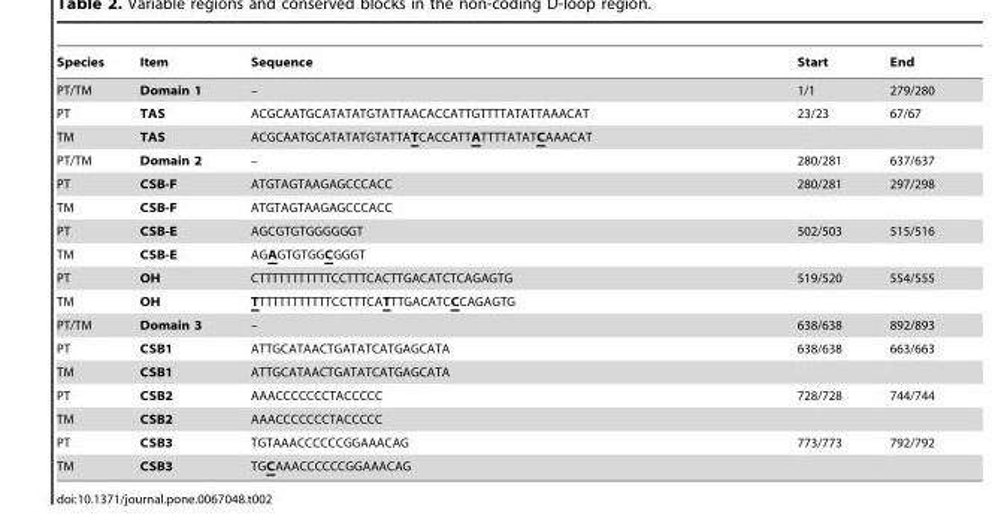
<table><thead><tr><td>Species</td><td>Item</td><td>Sequence</td><td>Start</td><td>End</td></tr></thead><tbody><tr><td>PT/TM</td><td>Domain 1</td><td>–</td><td>1/1</td><td>279/280</td></tr><tr><td>PT</td><td>TAS</td><td>ACGCAATGCATATATGTATTAACACCATTGTTTTATATTAAACAT</td><td>23/23</td><td>67/67</td></tr><tr><td>TM</td><td>TAS</td><td>ACGCAATGCATATATGTATTATCACCATTATTTTATATCAAACAT</td><td></td><td></td></tr><tr><td>PT/TM</td><td>Domain 2</td><td>–</td><td>280/281</td><td>637/637</td></tr><tr><td>PT</td><td>CSB-F</td><td>ATGTAGTAAGAGCCCACC</td><td>280/281</td><td>297/298</td></tr><tr><td>TM</td><td>CSB-F</td><td>ATGTAGTAAGAGCCCACC</td><td></td><td></td></tr><tr><td>PT</td><td>CSB-E</td><td>AGCGTGTGGGGGGT</td><td>502/503</td><td>515/516</td></tr><tr><td>TM</td><td>CSB-E</td><td>AGAGTGTGGCGGGT</td><td></td><td></td></tr><tr><td>PT</td><td>OH</td><td>CTTTTTTTTTTTCCTTTCACTTGACATCTCAGAGTG</td><td>519/520</td><td>554/555</td></tr><tr><td>TM</td><td>OH</td><td>TTTTTTTTTTTTCCTTTCATTTGACATCCCAGAGTG</td><td></td><td></td></tr><tr><td>PT/TM</td><td>Domain 3</td><td>–</td><td>638/638</td><td>892/893</td></tr><tr><td>PT</td><td>CSB1</td><td>ATTGCATAACTGATATCATGAGCATA</td><td>638/638</td><td>663/663</td></tr><tr><td>TM</td><td>CSB1</td><td>ATTGCATAACTGATATCATGAGCATA</td><td></td><td></td></tr><tr><td>PT</td><td>CSB2</td><td>AAACCCCCCCTACCCCC</td><td>728/728</td><td>744/744</td></tr><tr><td>TM</td><td>CSB2</td><td>AAACCCCCCCTACCCCC</td><td></td><td></td></tr><tr><td>PT</td><td>CSB3</td><td>TGTAAACCCCCCGGAAACAG</td><td>773/773</td><td>792/792</td></tr><tr><td>TM</td><td>CSB3</td><td>TGCAAACCCCCCGGAAACAG</td><td></td><td></td></tr></tbody></table>